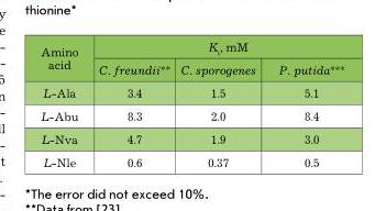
<table><thead><tr><td rowspan="2">Amino acid</td><td colspan="3">K<sub>i</sub>, mM</td></tr><tr><td>C. freundii**</td><td>C. sporogenes</td><td>P. putida***</td></tr></thead><tbody><tr><td>L-Ala</td><td>3.4</td><td>1.5</td><td>5.1</td></tr><tr><td>L-Abu</td><td>8.3</td><td>2.0</td><td>8.4</td></tr><tr><td>L-Nva</td><td>4.7</td><td>1.9</td><td>3.0</td></tr><tr><td>L-Nle</td><td>0.6</td><td>0.37</td><td>0.5</td></tr></tbody></table>